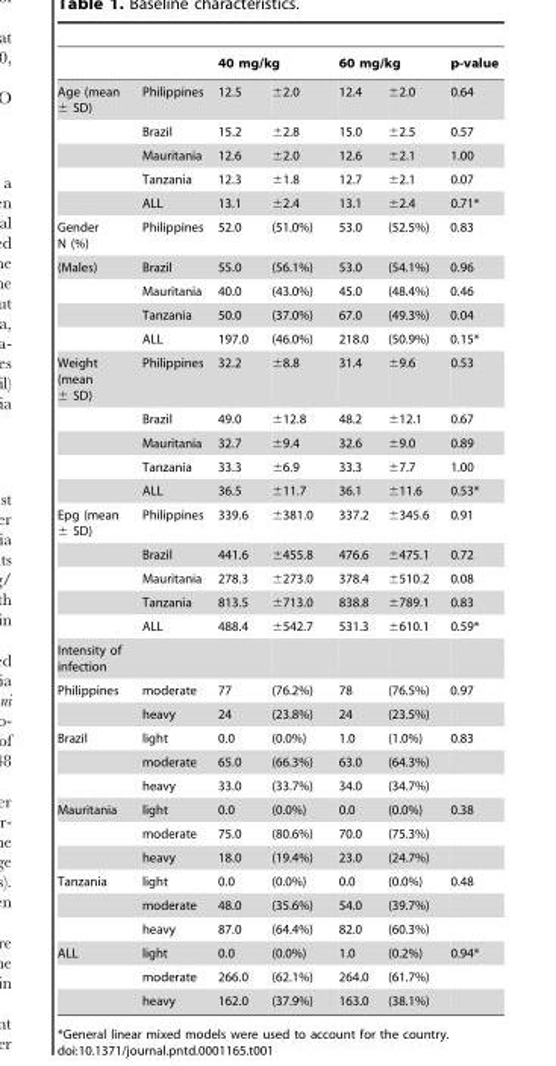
<table><thead><tr><td rowspan="2">Age (mean ± SD)</td><td rowspan="2">Philippines</td><td colspan="2">40 mg/kg</td><td colspan="2">60 mg/kg</td><td rowspan="2">p-value 0.64</td></tr><tr><td>12.5</td><td>±2.0</td><td>12.4</td><td>±2.0</td></tr></thead><tbody><tr><td></td><td>Brazil</td><td>15.2</td><td>±2.8</td><td>15.0</td><td>±2.5</td><td>0.57</td></tr><tr><td></td><td>Mauritania</td><td>12.6</td><td>±2.0</td><td>12.6</td><td>±2.1</td><td>1.00</td></tr><tr><td></td><td>Tanzania</td><td>12.3</td><td>±1.8</td><td>12.7</td><td>±2.1</td><td>0.07</td></tr><tr><td></td><td>ALL</td><td>13.1</td><td>±2.4</td><td>13.1</td><td>±2.4</td><td>0.71*</td></tr><tr><td>Gender N (%)</td><td>Philippines</td><td>52.0</td><td>(51.0%)</td><td>53.0</td><td>(52.5%)</td><td>0.83</td></tr><tr><td rowspan="4">(Males)</td><td>Brazil</td><td>55.0</td><td>(56.1%)</td><td>53.0</td><td>(54.1%)</td><td>0.96</td></tr><tr><td>Mauritania</td><td>40.0</td><td>(43.0%)</td><td>45.0</td><td>(48.4%)</td><td>0.46</td></tr><tr><td>Tanzania</td><td>50.0</td><td>(37.0%)</td><td>67.0</td><td>(49.3%)</td><td>0.04</td></tr><tr><td>ALL</td><td>197.0</td><td>(46.0%)</td><td>218.0</td><td>(50.9%)</td><td>0.15*</td></tr><tr><td rowspan="5">Weight (mean ± SD)</td><td>Philippines</td><td>32.2</td><td>±8.8</td><td>31.4</td><td>±9.6</td><td>0.53</td></tr><tr><td>Brazil</td><td>49.0</td><td>±12.8</td><td>48.2</td><td>±12.1</td><td>0.67</td></tr><tr><td>Mauritania</td><td>32.7</td><td>±9.4</td><td>32.6</td><td>±9.0</td><td>0.89</td></tr><tr><td>Tanzania</td><td>33.3</td><td>±6.9</td><td>33.3</td><td>±7.7</td><td>1.00</td></tr><tr><td>ALL</td><td>36.5</td><td>±11.7</td><td>36.1</td><td>±11.6</td><td>0.53*</td></tr><tr><td rowspan="5">Epg (mean ± SD)</td><td>Philippines</td><td>339.6</td><td>±381.0</td><td>337.2</td><td>±345.6</td><td>0.91</td></tr><tr><td>Brazil</td><td>441.6</td><td>±455.8</td><td>476.6</td><td>±475.1</td><td>0.72</td></tr><tr><td>Mauritania</td><td>278.3</td><td>±273.0</td><td>378.4</td><td>±510.2</td><td>0.08</td></tr><tr><td>Tanzania</td><td>813.5</td><td>±713.0</td><td>838.8</td><td>±789.1</td><td>0.83</td></tr><tr><td>ALL</td><td>488.4</td><td>±542.7</td><td>531.3</td><td>±610.1</td><td>0.59*</td></tr><tr><td colspan="7">Intensity of infection</td></tr><tr><td rowspan="2">Philippines</td><td>moderate</td><td>77</td><td>(76.2%)</td><td>78</td><td>(76.5%)</td><td>0.97</td></tr><tr><td>heavy</td><td>24</td><td>(23.8%)</td><td>24</td><td>(23.5%)</td><td></td></tr><tr><td rowspan="3">Brazil</td><td>light</td><td>0.0</td><td>(0.0%)</td><td>1.0</td><td>(1.0%)</td><td>0.83</td></tr><tr><td>moderate</td><td>65.0</td><td>(66.3%)</td><td>63.0</td><td>(64.3%)</td><td></td></tr><tr><td>heavy</td><td>33.0</td><td>(33.7%)</td><td>34.0</td><td>(34.7%)</td><td></td></tr><tr><td rowspan="3">Mauritania</td><td>light</td><td>0.0</td><td>(0.0%)</td><td>0.0</td><td>(0.0%)</td><td>0.38</td></tr><tr><td>moderate</td><td>75.0</td><td>(80.6%)</td><td>70.0</td><td>(75.3%)</td><td></td></tr><tr><td>heavy</td><td>18.0</td><td>(19.4%)</td><td>23.0</td><td>(24.7%)</td><td></td></tr><tr><td rowspan="3">Tanzania</td><td>light</td><td>0.0</td><td>(0.0%)</td><td>0.0</td><td>(0.0%)</td><td>0.48</td></tr><tr><td>moderate</td><td>48.0</td><td>(35.6%)</td><td>54.0</td><td>(39.7%)</td><td></td></tr><tr><td>heavy</td><td>87.0</td><td>(64.4%)</td><td>82.0</td><td>(60.3%)</td><td></td></tr><tr><td rowspan="3">ALL</td><td>light</td><td>0.0</td><td>(0.0%)</td><td>1.0</td><td>(0.2%)</td><td>0.94*</td></tr><tr><td>moderate</td><td>266.0</td><td>(62.1%)</td><td>264.0</td><td>(61.7%)</td><td></td></tr><tr><td>heavy</td><td>162.0</td><td>(37.9%)</td><td>163.0</td><td>(38.1%)</td><td></td></tr></tbody></table>